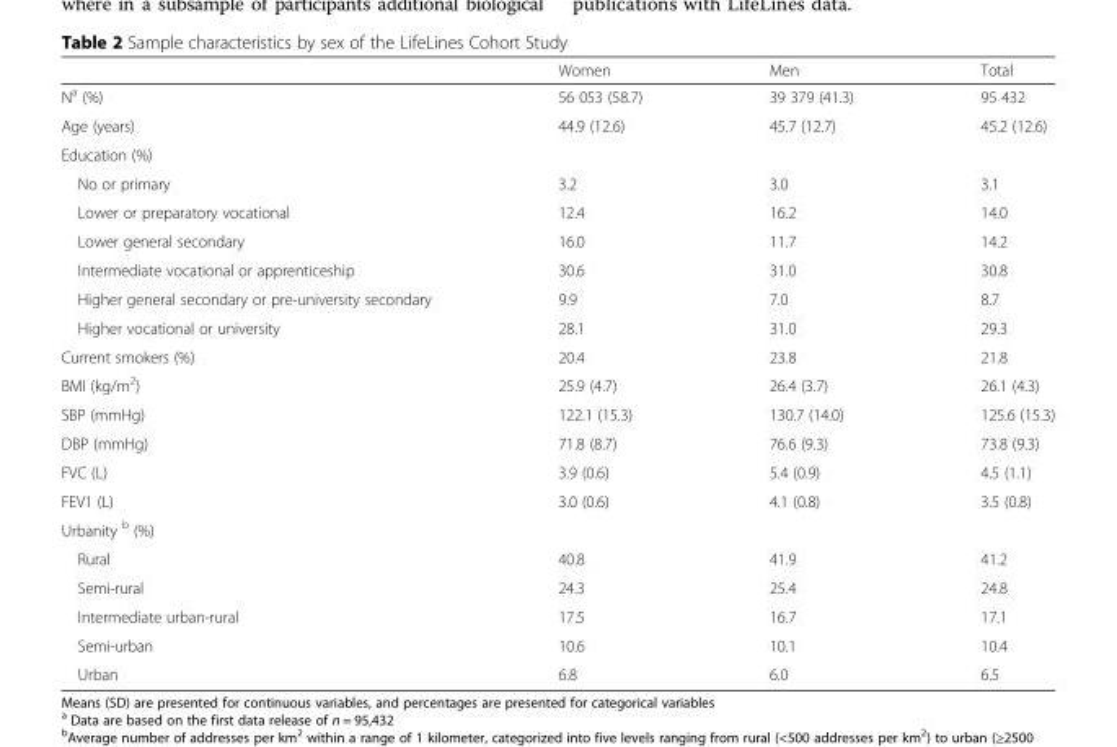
<table><thead><tr><td></td><td>Women</td><td>Men</td><td>Total</td></tr></thead><tbody><tr><td>N<sup>a</sup> (%)</td><td>56 053 (58.7)</td><td>39 379 (41.3)</td><td>95 432</td></tr><tr><td>Age (years)</td><td>44.9 (12.6)</td><td>45.7 (12.7)</td><td>45.2 (12.6)</td></tr><tr><td colspan="4">Education (%)</td></tr><tr><td>No or primary</td><td>3.2</td><td>3.0</td><td>3.1</td></tr><tr><td>Lower or preparatory vocational</td><td>12.4</td><td>16.2</td><td>14.0</td></tr><tr><td>Lower general secondary</td><td>16.0</td><td>11.7</td><td>14.2</td></tr><tr><td>Intermediate vocational or apprenticeship</td><td>30.6</td><td>31.0</td><td>30.8</td></tr><tr><td>Higher general secondary or pre-university secondary</td><td>9.9</td><td>7.0</td><td>8.7</td></tr><tr><td>Higher vocational or university</td><td>28.1</td><td>31.0</td><td>29.3</td></tr><tr><td>Current smokers (%)</td><td>20.4</td><td>23.8</td><td>21.8</td></tr><tr><td>BMI (kg/m<sup>2</sup>)</td><td>25.9 (4.7)</td><td>26.4 (3.7)</td><td>26.1 (4.3)</td></tr><tr><td>SBP (mmHg)</td><td>122.1 (15.3)</td><td>130.7 (14.0)</td><td>125.6 (15.3)</td></tr><tr><td>DBP (mmHg)</td><td>71.8 (8.7)</td><td>76.6 (9.3)</td><td>73.8 (9.3)</td></tr><tr><td>FVC (L)</td><td>3.9 (0.6)</td><td>5.4 (0.9)</td><td>4.5 (1.1)</td></tr><tr><td>FEV1 (L)</td><td>3.0 (0.6)</td><td>4.1 (0.8)</td><td>3.5 (0.8)</td></tr><tr><td colspan="4">Urbanity <sup>b</sup> (%)</td></tr><tr><td>Rural</td><td>40.8</td><td>41.9</td><td>41.2</td></tr><tr><td>Semi-rural</td><td>24.3</td><td>25.4</td><td>24.8</td></tr><tr><td>Intermediate urban-rural</td><td>17.5</td><td>16.7</td><td>17.1</td></tr><tr><td>Semi-urban</td><td>10.6</td><td>10.1</td><td>10.4</td></tr><tr><td>Urban</td><td>6.8</td><td>6.0</td><td>6.5</td></tr></tbody></table>